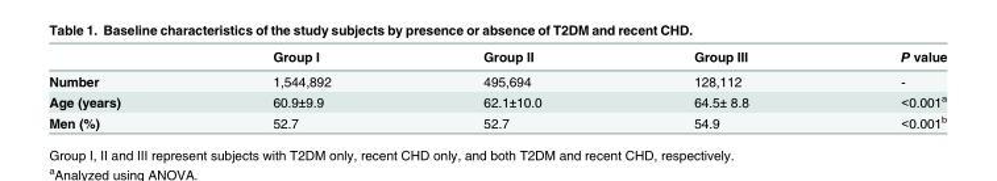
<table><thead><tr><td></td><td>Group I</td><td>Group II</td><td>Group III</td><td>P value</td></tr></thead><tbody><tr><td>Number</td><td>1,544,892</td><td>495,694</td><td>128,112</td><td>-</td></tr><tr><td>Age (years)</td><td>60.9±9.9</td><td>62.1±10.0</td><td>64.5± 8.8</td><td>&lt;0.001<sup>a</sup></td></tr><tr><td>Men (%)</td><td>52.7</td><td>52.7</td><td>54.9</td><td>&lt;0.001<sup>b</sup></td></tr></tbody></table>